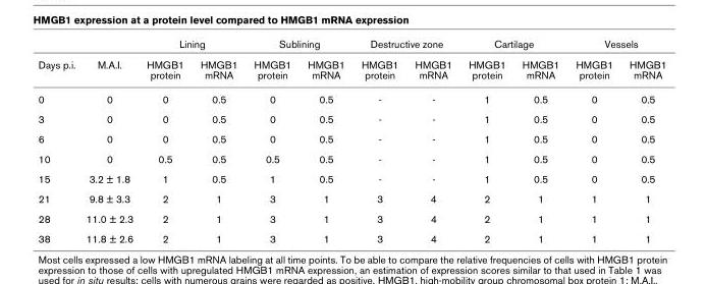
<table><thead><tr><td rowspan="2">Days p.i.</td><td rowspan="2">M.A.I.</td><td colspan="2">Lining</td><td colspan="2">Sublining</td><td colspan="2">Destructive zone</td><td colspan="2">Cartilage</td><td colspan="2">Vessels</td></tr><tr><td>HMGB1 protein</td><td>HMGB1 mRNA</td><td>HMGB1 protein</td><td>HMGB1 mRNA</td><td>HMGB1 protein</td><td>HMGB1 mRNA</td><td>HMGB1 protein</td><td>HMGB1 mRNA</td><td>HMGB1 protein</td><td>HMGB1 mRNA</td></tr></thead><tbody><tr><td>0</td><td>0</td><td>0</td><td>0.5</td><td>0</td><td>0.5</td><td>-</td><td>-</td><td>1</td><td>0.5</td><td>0</td><td>0.5</td></tr><tr><td>3</td><td>0</td><td>0</td><td>0.5</td><td>0</td><td>0.5</td><td>-</td><td>-</td><td>1</td><td>0.5</td><td>0</td><td>0.5</td></tr><tr><td>6</td><td>0</td><td>0</td><td>0.5</td><td>0</td><td>0.5</td><td>-</td><td>-</td><td>1</td><td>0.5</td><td>0</td><td>0.5</td></tr><tr><td>10</td><td>0</td><td>0.5</td><td>0.5</td><td>0.5</td><td>0.5</td><td>-</td><td>-</td><td>1</td><td>0.5</td><td>0</td><td>0.5</td></tr><tr><td>15</td><td>3.2 ± 1.8</td><td>1</td><td>0.5</td><td>1</td><td>0.5</td><td>-</td><td>-</td><td>1</td><td>0.5</td><td>0</td><td>0.5</td></tr><tr><td>21</td><td>9.8 ± 3.3</td><td>2</td><td>1</td><td>3</td><td>1</td><td>3</td><td>4</td><td>2</td><td>1</td><td>1</td><td>1</td></tr><tr><td>28</td><td>11.0 ± 2.3</td><td>2</td><td>1</td><td>3</td><td>1</td><td>3</td><td>4</td><td>2</td><td>1</td><td>1</td><td>1</td></tr><tr><td>38</td><td>11.8 ± 2.6</td><td>2</td><td>1</td><td>3</td><td>1</td><td>3</td><td>4</td><td>2</td><td>1</td><td>1</td><td>1</td></tr></tbody></table>